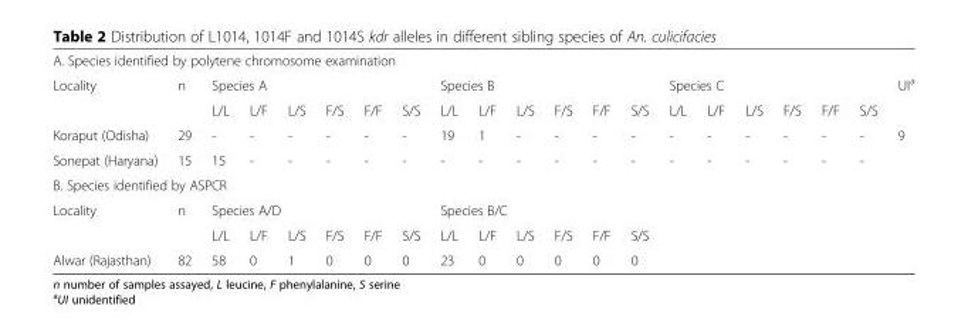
<table><tbody><tr><td colspan="21">A. Species identified by polytene chromosome examination</td></tr><tr><td rowspan="2">Locality</td><td rowspan="2">n</td><td colspan="6">Species A</td><td colspan="6">Species B</td><td colspan="6">Species C</td><td rowspan="2">UI<sup>a</sup></td></tr><tr><td>L/L</td><td>L/F</td><td>L/S</td><td>F/S</td><td>F/F</td><td>S/S</td><td>L/L</td><td>L/F</td><td>L/S</td><td>F/S</td><td>F/F</td><td>S/S</td><td>L/L</td><td>L/F</td><td>L/S</td><td>F/S</td><td>F/F</td><td>S/S</td></tr><tr><td>Koraput (Odisha)</td><td>29</td><td>-</td><td>-</td><td>-</td><td>-</td><td>-</td><td>-</td><td>19</td><td>1</td><td>-</td><td>-</td><td>-</td><td>-</td><td>-</td><td>-</td><td>-</td><td>-</td><td>-</td><td>-</td><td>9</td></tr><tr><td>Sonepat (Haryana)</td><td>15</td><td>15</td><td>-</td><td>-</td><td>-</td><td>-</td><td>-</td><td>-</td><td>-</td><td>-</td><td>-</td><td>-</td><td>-</td><td>-</td><td>-</td><td>-</td><td>-</td><td>-</td><td>-</td><td></td></tr><tr><td colspan="21">B. Species identified by ASPCR</td></tr><tr><td rowspan="2">Locality</td><td rowspan="2">n</td><td colspan="6">Species A/D</td><td colspan="13">Species B/C</td></tr><tr><td>L/L</td><td>L/F</td><td>L/S</td><td>F/S</td><td>F/F</td><td>S/S</td><td>L/L</td><td>L/F</td><td>L/S</td><td>F/S</td><td>F/F</td><td colspan="8">S/S</td></tr><tr><td>Alwar (Rajasthan)</td><td>82</td><td>58</td><td>0</td><td>1</td><td>0</td><td>0</td><td>0</td><td>23</td><td>0</td><td>0</td><td>0</td><td>0</td><td colspan="8">0</td></tr></tbody></table>